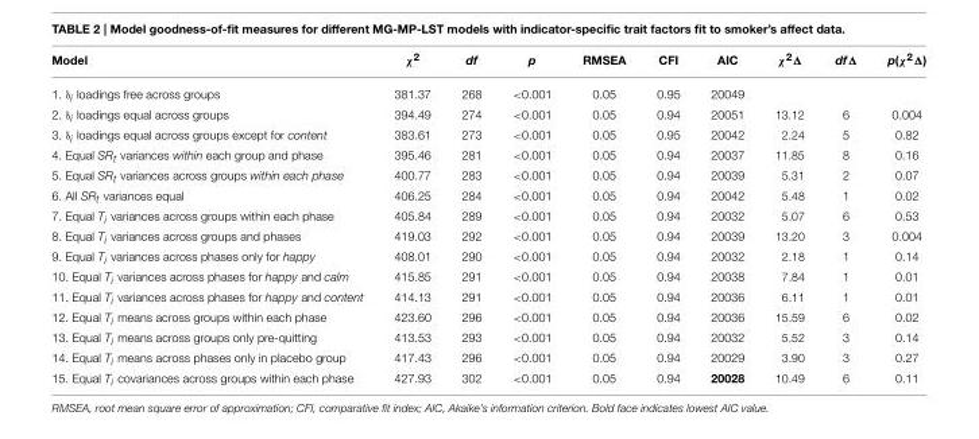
<table><thead><tr><td>Model</td><td>χ<sup>2</sup></td><td>df</td><td>p</td><td>RMSEA</td><td>CFI</td><td>AIC</td><td>χ<sup>2Δ</sup></td><td>dfΔ</td><td>p(χ<sup>2</sup>Δ)</td></tr></thead><tbody><tr><td>1. δ<sub>i</sub> loadings free across groups</td><td>381.37</td><td>268</td><td>&lt;0.001</td><td>0.05</td><td>0.95</td><td>20049</td><td></td><td></td><td></td></tr><tr><td>2. δ<sub>i</sub> loadings equal across groups</td><td>394.49</td><td>274</td><td>&lt;0.001</td><td>0.05</td><td>0.94</td><td>20051</td><td>13.12</td><td>6</td><td>0.004</td></tr><tr><td>3. δ<sub>i</sub> loadings equal across groups except for content</td><td>383.61</td><td>273</td><td>&lt;0.001</td><td>0.05</td><td>0.95</td><td>20042</td><td>2.24</td><td>5</td><td>0.82</td></tr><tr><td>4. Equal SR<sub>t</sub> variances within each group and phase</td><td>395.46</td><td>281</td><td>&lt;0.001</td><td>0.05</td><td>0.94</td><td>20037</td><td>11.85</td><td>8</td><td>0.16</td></tr><tr><td>5. Equal SR<sub>t</sub> variances across groups within each phase</td><td>400.77</td><td>283</td><td>&lt;0.001</td><td>0.05</td><td>0.94</td><td>20039</td><td>5.31</td><td>2</td><td>0.07</td></tr><tr><td>6. All SR<sub>t</sub> variances equal</td><td>406.25</td><td>284</td><td>&lt;0.001</td><td>0.05</td><td>0.94</td><td>20042</td><td>5.48</td><td>1</td><td>0.02</td></tr><tr><td>7. Equal T<sub>i</sub> variances across groups within each phase</td><td>405.84</td><td>289</td><td>&lt;0.001</td><td>0.05</td><td>0.94</td><td>20032</td><td>5.07</td><td>6</td><td>0.53</td></tr><tr><td>8. Equal T<sub>i</sub> variances across groups and phases</td><td>419.03</td><td>292</td><td>&lt;0.001</td><td>0.05</td><td>0.94</td><td>20039</td><td>13.20</td><td>3</td><td>0.004</td></tr><tr><td>9. Equal T<sub>i</sub> variances across phases only for happy</td><td>408.01</td><td>290</td><td>&lt;0.001</td><td>0.05</td><td>0.94</td><td>20032</td><td>2.18</td><td>1</td><td>0.14</td></tr><tr><td>10. Equal T<sub>i</sub> variances across phases for happy and calm</td><td>415.85</td><td>291</td><td>&lt;0.001</td><td>0.05</td><td>0.94</td><td>20038</td><td>7.84</td><td>1</td><td>0.01</td></tr><tr><td>11. Equal T<sub>i</sub> variances across phases for happy and content</td><td>414.13</td><td>291</td><td>&lt;0.001</td><td>0.05</td><td>0.94</td><td>20036</td><td>6.11</td><td>1</td><td>0.01</td></tr><tr><td>12. Equal T<sub>i</sub> means across groups within each phase</td><td>423.60</td><td>296</td><td>&lt;0.001</td><td>0.05</td><td>0.94</td><td>20036</td><td>15.59</td><td>6</td><td>0.02</td></tr><tr><td>13. Equal T<sub>i</sub> means across groups only pre-quitting</td><td>413.53</td><td>293</td><td>&lt;0.001</td><td>0.05</td><td>0.94</td><td>20032</td><td>5.52</td><td>3</td><td>0.14</td></tr><tr><td>14. Equal T<sub>i</sub> means across phases only in placebo group</td><td>417.43</td><td>296</td><td>&lt;0.001</td><td>0.05</td><td>0.94</td><td>20029</td><td>3.90</td><td>3</td><td>0.27</td></tr><tr><td>15. Equal T<sub>i</sub> covariances across groups within each phase</td><td>427.93</td><td>302</td><td>&lt;0.001</td><td>0.05</td><td>0.94</td><td>20028</td><td>10.49</td><td>6</td><td>0.11</td></tr></tbody></table>